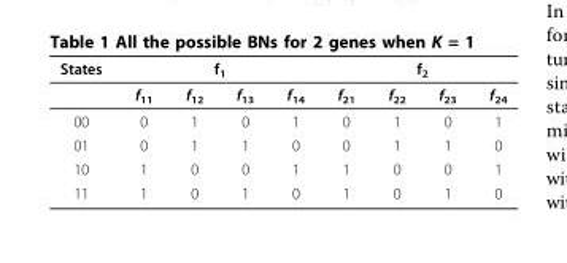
<table><thead><tr><td rowspan="2">States</td><td colspan="4">f<sub>1</sub></td><td colspan="4">f<sub>2</sub></td></tr><tr><td>f<sub>11</sub></td><td>f<sub>12</sub></td><td>f<sub>13</sub></td><td>f<sub>14</sub></td><td>f<sub>21</sub></td><td>f<sub>22</sub></td><td>f<sub>23</sub></td><td>f<sub>24</sub></td></tr></thead><tbody><tr><td>00</td><td>0</td><td>1</td><td>0</td><td>1</td><td>0</td><td>1</td><td>0</td><td>1</td></tr><tr><td>01</td><td>0</td><td>1</td><td>1</td><td>0</td><td>0</td><td>1</td><td>1</td><td>0</td></tr><tr><td>10</td><td>1</td><td>0</td><td>0</td><td>1</td><td>1</td><td>0</td><td>0</td><td>1</td></tr><tr><td>11</td><td>1</td><td>0</td><td>1</td><td>0</td><td>1</td><td>0</td><td>1</td><td>0</td></tr></tbody></table>